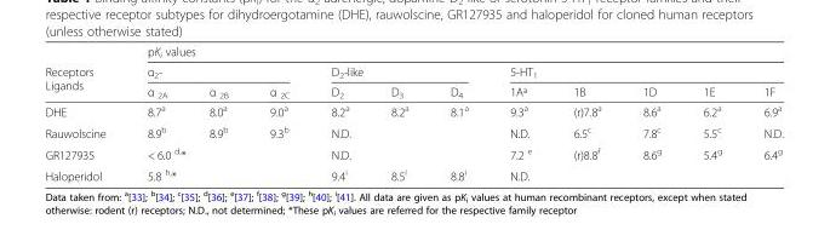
<table><thead><tr><td rowspan="3">Receptors Ligands</td><td colspan="11">pK<sub>i</sub> values</td></tr><tr><td colspan="3">α<sub>2</sub>-</td><td colspan="3">D<sub>2</sub>-like</td><td colspan="5">5-HT<sub>1</sub></td></tr><tr><td>α <sub>2A</sub></td><td>α <sub>2B</sub></td><td>α <sub>2C</sub></td><td>D<sub>2</sub></td><td>D<sub>3</sub></td><td>D<sub>4</sub></td><td>1Aª</td><td>1B</td><td>1D</td><td>1E</td><td>1F</td></tr></thead><tbody><tr><td>DHE</td><td>8.7<sup>a</sup></td><td>8.0<sup>a</sup></td><td>9.0<sup>a</sup></td><td>8.2<sup>a</sup></td><td>8.2<sup>a</sup></td><td>8.1<sup>a</sup></td><td>9.3<sup>a</sup></td><td>(r)7.8<sup>a</sup></td><td>8.6<sup>a</sup></td><td>6.2<sup>a</sup></td><td>6.9<sup>a</sup></td></tr><tr><td>Rauwolscine</td><td>8.9<sup>b</sup></td><td>8.9<sup>b</sup></td><td>9.3<sup>b</sup></td><td colspan="3">N.D.</td><td>N.D.</td><td>6.5<sup>c</sup></td><td>7.8<sup>c</sup></td><td>5.5<sup>c</sup></td><td>N.D.</td></tr><tr><td>GR127935</td><td colspan="3">&lt; 6.0 <sup>d,</sup>*</td><td colspan="3">N.D.</td><td>7.2 <sup>e</sup></td><td>(r)8.8<sup>f</sup></td><td>8.6<sup>g</sup></td><td>5.4<sup>g</sup></td><td>6.4<sup>g</sup></td></tr><tr><td>Haloperidol</td><td colspan="3">5.8 <sup>h,</sup>*</td><td>9.4<sup>i</sup></td><td>8.5<sup>i</sup></td><td>8.8<sup>i</sup></td><td colspan="5">N.D.</td></tr></tbody></table>